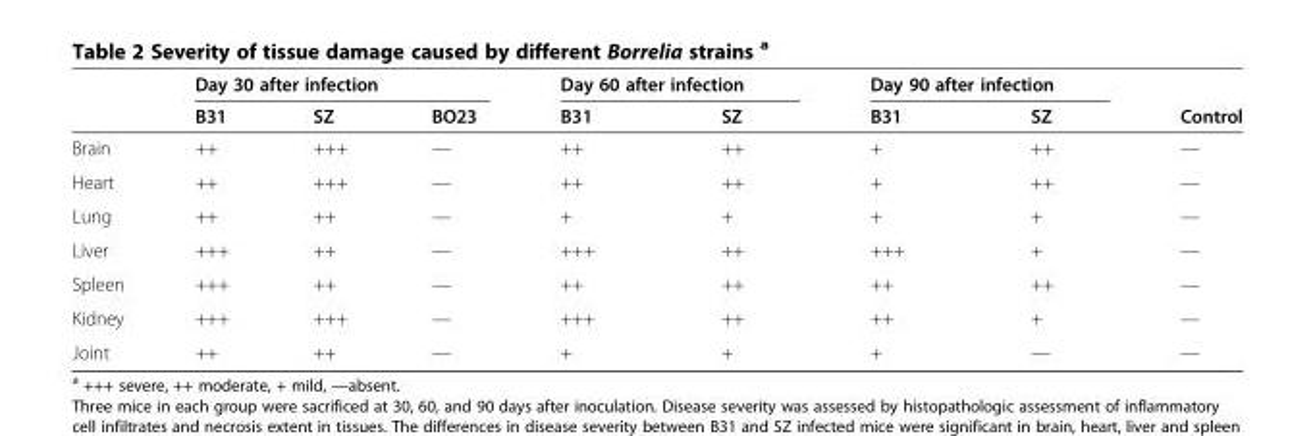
<table><thead><tr><td rowspan="2"></td><td colspan="3">Day 30 after infection</td><td colspan="2">Day 60 after infection</td><td colspan="2">Day 90 after infection</td><td rowspan="2">Control</td></tr><tr><td>B31</td><td>SZ</td><td>BO23</td><td>B31</td><td>SZ</td><td>B31</td><td>SZ</td></tr></thead><tbody><tr><td>Brain</td><td>++</td><td>+++</td><td>—</td><td>++</td><td>++</td><td>+</td><td>++</td><td>—</td></tr><tr><td>Heart</td><td>++</td><td>+++</td><td>—</td><td>++</td><td>++</td><td>+</td><td>++</td><td>—</td></tr><tr><td>Lung</td><td>++</td><td>++</td><td>—</td><td>+</td><td>+</td><td>+</td><td>+</td><td>—</td></tr><tr><td>Liver</td><td>+++</td><td>++</td><td>—</td><td>+++</td><td>++</td><td>+++</td><td>+</td><td>—</td></tr><tr><td>Spleen</td><td>+++</td><td>++</td><td>—</td><td>++</td><td>++</td><td>++</td><td>++</td><td>—</td></tr><tr><td>Kidney</td><td>+++</td><td>+++</td><td>—</td><td>+++</td><td>++</td><td>++</td><td>+</td><td>—</td></tr><tr><td>Joint</td><td>++</td><td>++</td><td>—</td><td>+</td><td>+</td><td>+</td><td>—</td><td>—</td></tr></tbody></table>